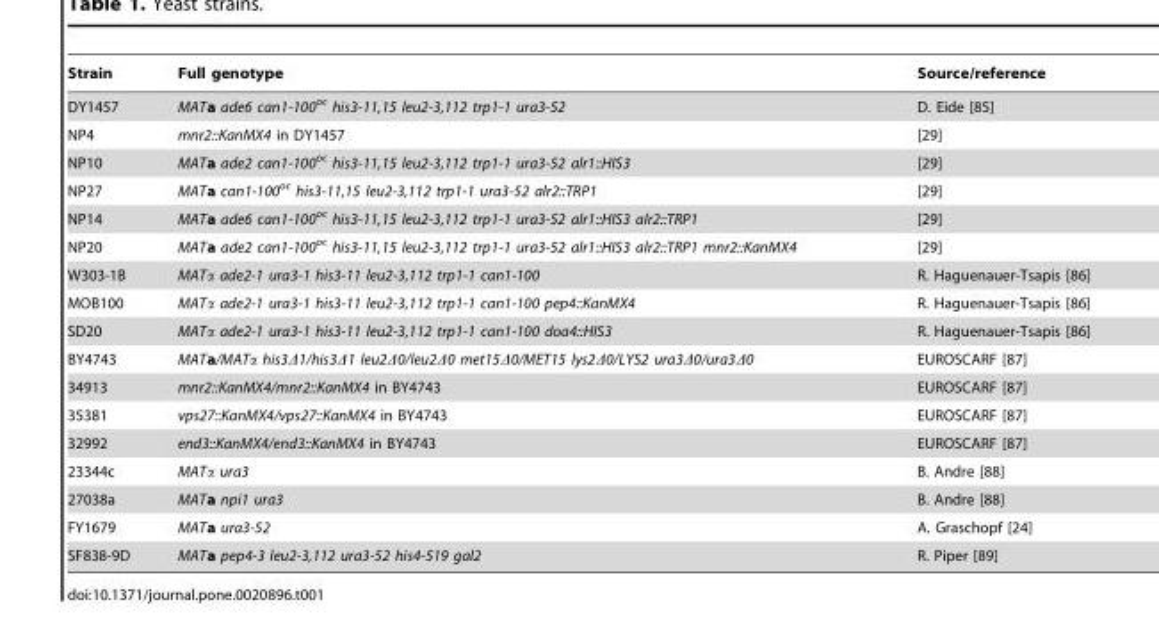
<table><thead><tr><td>Strain</td><td>Full genotype</td><td>Source/reference</td></tr></thead><tbody><tr><td>DY1457</td><td>MATa ade6 can1-100<sup>oc</sup> his3-11,15 leu2-3,112 trp1-1 ura3-52</td><td>D. Eide [85]</td></tr><tr><td>NP4</td><td>mnr2::KanMX4 in DY1457</td><td>[29]</td></tr><tr><td>NP10</td><td>MATa ade2 can1-100<sup>oc</sup> his3-11,15 leu2-3,112 trp1-1 ura3-52 alr1::HIS3</td><td>[29]</td></tr><tr><td>NP27</td><td>MATa can1-100<sup>oc</sup> his3-11,15 leu2-3,112 trp1-1 ura3-52 alr2::TRP1</td><td>[29]</td></tr><tr><td>NP14</td><td>MATa ade6 can1-100<sup>oc</sup> his3-11,15 leu2-3,112 trp1-1 ura3-52 alr1::HIS3 alr2::TRP1</td><td>[29]</td></tr><tr><td>NP20</td><td>MATa ade2 can1-100<sup>oc</sup> his3-11,15 leu2-3,112 trp1-1 ura3-52 alr1::HIS3 alr2::TRP1 mnr2::KanMX4</td><td>[29]</td></tr><tr><td>W303-1B</td><td>MATα ade2-1 ura3-1 his3-11 leu2-3,112 trp1-1 can1-100</td><td>R. Haguenauer-Tsapis [86]</td></tr><tr><td>MOB100</td><td>MATα ade2-1 ura3-1 his3-11 leu2-3,112 trp1-1 can1-100 pep4::KanMX4</td><td>R. Haguenauer-Tsapis [86]</td></tr><tr><td>SD20</td><td>MATα ade2-1 ura3-1 his3-11 leu2-3,112 trp1-1 can1-100 doa4::HIS3</td><td>R. Haguenauer-Tsapis [86]</td></tr><tr><td>BY4743</td><td>MATa/MATα his3Δ1/his3Δ1 leu2Δ0/leu2Δ0 met15Δ0/MET15 lys2Δ0/LYS2 ura3Δ0/ura3Δ0</td><td>EUROSCARF [87]</td></tr><tr><td>34913</td><td>mnr2::KanMX4/mnr2::KanMX4 in BY4743</td><td>EUROSCARF [87]</td></tr><tr><td>35381</td><td>vps27::KanMX4/vps27::KanMX4 in BY4743</td><td>EUROSCARF [87]</td></tr><tr><td>32992</td><td>end3::KanMX4/end3::KanMX4 in BY4743</td><td>EUROSCARF [87]</td></tr><tr><td>23344c</td><td>MATα ura3</td><td>B. Andre [88]</td></tr><tr><td>27038a</td><td>MATa npi1 ura3</td><td>B. Andre [88]</td></tr><tr><td>FY1679</td><td>MATa ura3-52</td><td>A. Graschopf [24]</td></tr><tr><td>SF838-9D</td><td>MATa pep4-3 leu2-3,112 ura3-52 his4-519 gal2</td><td>R. Piper [89]</td></tr></tbody></table>